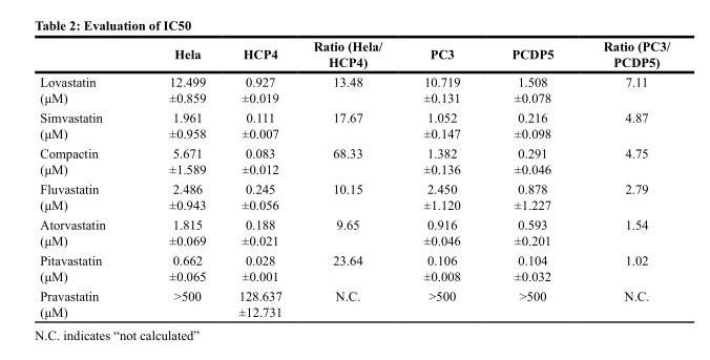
<table><thead><tr><td></td><td>Hela</td><td>HCP4</td><td>Ratio (Hela/ HCP4)</td><td>PC3</td><td>PCDP5</td><td>Ratio (PC3/ PCDP5)</td></tr></thead><tbody><tr><td>Lovastatin (μM)</td><td>12.499 ±0.859</td><td>0.927 ±0.019</td><td>13.48</td><td>10.719 ±0.131</td><td>1.508 ±0.078</td><td>7.11</td></tr><tr><td>Simvastatin (μM)</td><td>1.961 ±0.958</td><td>0.111 ±0.007</td><td>17.67</td><td>1.052 ±0.147</td><td>0.216 ±0.098</td><td>4.87</td></tr><tr><td>Compactin (μM)</td><td>5.671 ±1.589</td><td>0.083 ±0.012</td><td>68.33</td><td>1.382 ±0.136</td><td>0.291 ±0.046</td><td>4.75</td></tr><tr><td>Fluvastatin (μM)</td><td>2.486 ±0.943</td><td>0.245 ±0.056</td><td>10.15</td><td>2.450 ±1.120</td><td>0.878 ±1.227</td><td>2.79</td></tr><tr><td>Atorvastatin (μM)</td><td>1.815 ±0.069</td><td>0.188 ±0.021</td><td>9.65</td><td>0.916 ±0.046</td><td>0.593 ±0.201</td><td>1.54</td></tr><tr><td>Pitavastatin (μM)</td><td>0.662 ±0.065</td><td>0.028 ±0.001</td><td>23.64</td><td>0.106 ±0.008</td><td>0.104 ±0.032</td><td>1.02</td></tr><tr><td>Pravastatin (μM)</td><td>&gt;500</td><td>128.637 ±12.731</td><td>N.C.</td><td>&gt;500</td><td>&gt;500</td><td>N.C.</td></tr></tbody></table>